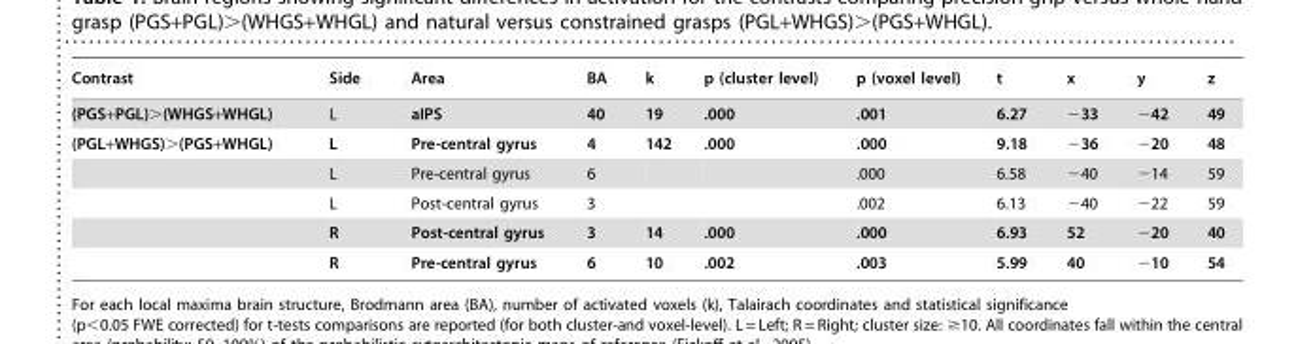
<table><thead><tr><td>Contrast</td><td>Side</td><td>Area</td><td>BA</td><td>k</td><td>p (cluster level)</td><td>p (voxel level)</td><td>t</td><td>x</td><td>y</td><td>z</td></tr></thead><tbody><tr><td>(PGS+PGL)&gt;(WHGS+WHGL)</td><td>L</td><td>aIPS</td><td>40</td><td>19</td><td>.000</td><td>.001</td><td>6.27</td><td>−33</td><td>−42</td><td>49</td></tr><tr><td rowspan="5">(PGL+WHGS)&gt;(PGS+WHGL)</td><td>L</td><td>Pre-central gyrus</td><td>4</td><td>142</td><td>.000</td><td>.000</td><td>9.18</td><td>−36</td><td>−20</td><td>48</td></tr><tr><td>L</td><td>Pre-central gyrus</td><td>6</td><td></td><td></td><td>.000</td><td>6.58</td><td>−40</td><td>−14</td><td>59</td></tr><tr><td>L</td><td>Post-central gyrus</td><td>3</td><td></td><td></td><td>.002</td><td>6.13</td><td>−40</td><td>−22</td><td>59</td></tr><tr><td>R</td><td>Post-central gyrus</td><td>3</td><td>14</td><td>.000</td><td>.000</td><td>6.93</td><td>52</td><td>−20</td><td>40</td></tr><tr><td>R</td><td>Pre-central gyrus</td><td>6</td><td>10</td><td>.002</td><td>.003</td><td>5.99</td><td>40</td><td>−10</td><td>54</td></tr></tbody></table>